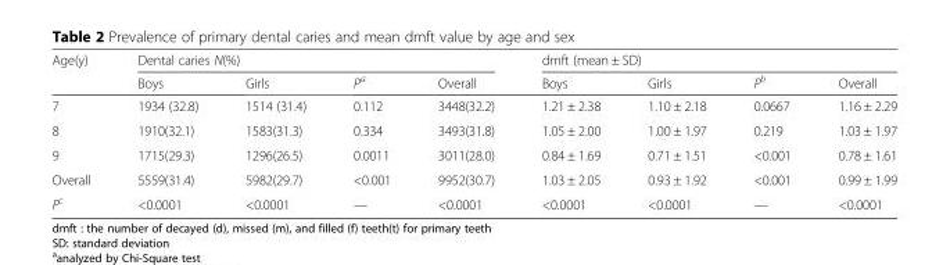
<table><thead><tr><td rowspan="2">Age(y)</td><td colspan="4">Dental caries N(%)</td><td colspan="4">dmft (mean ± SD)</td></tr><tr><td>Boys</td><td>Girls</td><td>P<sup>a</sup></td><td>Overall</td><td>Boys</td><td>Girls</td><td>P<sup>b</sup></td><td>Overall</td></tr></thead><tbody><tr><td>7</td><td>1934 (32.8)</td><td>1514 (31.4)</td><td>0.112</td><td>3448(32.2)</td><td>1.21 ± 2.38</td><td>1.10 ± 2.18</td><td>0.0667</td><td>1.16 ± 2.29</td></tr><tr><td>8</td><td>1910(32.1)</td><td>1583(31.3)</td><td>0.334</td><td>3493(31.8)</td><td>1.05 ± 2.00</td><td>1.00 ± 1.97</td><td>0.219</td><td>1.03 ± 1.97</td></tr><tr><td>9</td><td>1715(29.3)</td><td>1296(26.5)</td><td>0.0011</td><td>3011(28.0)</td><td>0.84 ± 1.69</td><td>0.71 ± 1.51</td><td>&lt;0.001</td><td>0.78 ± 1.61</td></tr><tr><td>Overall</td><td>5559(31.4)</td><td>5982(29.7)</td><td>&lt;0.001</td><td>9952(30.7)</td><td>1.03 ± 2.05</td><td>0.93 ± 1.92</td><td>&lt;0.001</td><td>0.99 ± 1.99</td></tr><tr><td>P<sup>c</sup></td><td>&lt;0.0001</td><td>&lt;0.0001</td><td>—</td><td>&lt;0.0001</td><td>&lt;0.0001</td><td>&lt;0.0001</td><td>—</td><td>&lt;0.0001</td></tr></tbody></table>